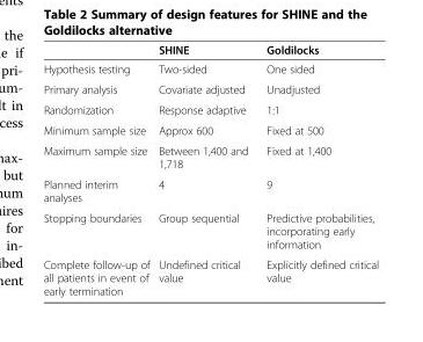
<table><thead><tr><td></td><td>SHINE</td><td>Goldilocks</td></tr></thead><tbody><tr><td>Hypothesis testing</td><td>Two-sided</td><td>One sided</td></tr><tr><td>Primary analysis</td><td>Covariate adjusted</td><td>Unadjusted</td></tr><tr><td>Randomization</td><td>Response adaptive</td><td>1:1</td></tr><tr><td>Minimum sample size</td><td>Approx 600</td><td>Fixed at 500</td></tr><tr><td>Maximum sample size</td><td>Between 1,400 and 1,718</td><td>Fixed at 1,400</td></tr><tr><td>Planned interim analyses</td><td>4</td><td>9</td></tr><tr><td>Stopping boundaries</td><td>Group sequential</td><td>Predictive probabilities, incorporating early information</td></tr><tr><td>Complete follow-up of all patients in event of early termination</td><td>Undefined critical value</td><td>Explicitly defined critical value</td></tr></tbody></table>